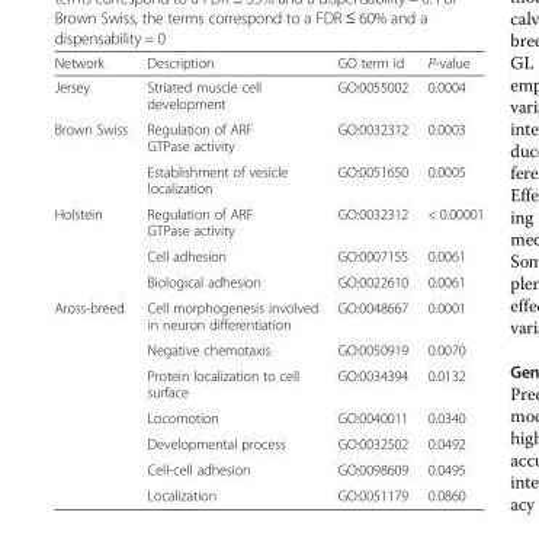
<table><thead><tr><td>Network</td><td>Description</td><td>GO term id</td><td>P-value</td></tr></thead><tbody><tr><td>Jersey</td><td>Striated muscle cell development</td><td>GO:0055002</td><td>0.0004</td></tr><tr><td rowspan="2">Brown Swiss</td><td>Regulation of ARF GTPase activity</td><td>GO:0032312</td><td>0.0003</td></tr><tr><td>Establishment of vesicle localization</td><td>GO:0051650</td><td>0.0005</td></tr><tr><td rowspan="3">Holstein</td><td>Regulation of ARF GTPase activity</td><td>GO:0032312</td><td>&lt; 0.00001</td></tr><tr><td>Cell adhesion</td><td>GO:0007155</td><td>0.0061</td></tr><tr><td>Biological adhesion</td><td>GO:0022610</td><td>0.0061</td></tr><tr><td rowspan="7">Aross-breed</td><td>Cell morphogenesis involved in neuron differentiation</td><td>GO:0048667</td><td>0.0001</td></tr><tr><td>Negative chemotaxis</td><td>GO:0050919</td><td>0.0070</td></tr><tr><td>Protein localization to cell surface</td><td>GO:0034394</td><td>0.0132</td></tr><tr><td>Locomotion</td><td>GO:0040011</td><td>0.0340</td></tr><tr><td>Developmental process</td><td>GO:0032502</td><td>0.0492</td></tr><tr><td>Cell-cell adhesion</td><td>GO:0098609</td><td>0.0495</td></tr><tr><td>Localization</td><td>GO:0051179</td><td>0.0860</td></tr></tbody></table>